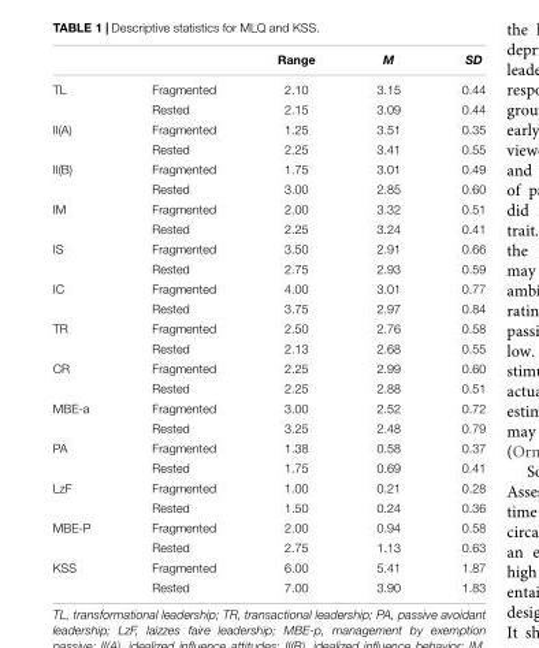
<table><thead><tr><td></td><td></td><td>Range</td><td>M</td><td>SD</td></tr></thead><tbody><tr><td rowspan="2">TL</td><td>Fragmented</td><td>2.10</td><td>3.15</td><td>0.44</td></tr><tr><td>Rested</td><td>2.15</td><td>3.09</td><td>0.44</td></tr><tr><td rowspan="2">II(A)</td><td>Fragmented</td><td>1.25</td><td>3.51</td><td>0.35</td></tr><tr><td>Rested</td><td>2.25</td><td>3.41</td><td>0.55</td></tr><tr><td rowspan="2">II(B)</td><td>Fragmented</td><td>1.75</td><td>3.01</td><td>0.49</td></tr><tr><td>Rested</td><td>3.00</td><td>2.85</td><td>0.60</td></tr><tr><td rowspan="2">IM</td><td>Fragmented</td><td>2.00</td><td>3.32</td><td>0.51</td></tr><tr><td>Rested</td><td>2.25</td><td>3.24</td><td>0.41</td></tr><tr><td rowspan="2">IS</td><td>Fragmented</td><td>3.50</td><td>2.91</td><td>0.66</td></tr><tr><td>Rested</td><td>2.75</td><td>2.93</td><td>0.59</td></tr><tr><td rowspan="2">IC</td><td>Fragmented</td><td>4.00</td><td>3.01</td><td>0.77</td></tr><tr><td>Rested</td><td>3.75</td><td>2.97</td><td>0.84</td></tr><tr><td rowspan="2">TR</td><td>Fragmented</td><td>2.50</td><td>2.76</td><td>0.58</td></tr><tr><td>Rested</td><td>2.13</td><td>2.68</td><td>0.55</td></tr><tr><td rowspan="2">CR</td><td>Fragmented</td><td>2.25</td><td>2.99</td><td>0.60</td></tr><tr><td>Rested</td><td>2.25</td><td>2.88</td><td>0.51</td></tr><tr><td rowspan="2">MBE-a</td><td>Fragmented</td><td>3.00</td><td>2.52</td><td>0.72</td></tr><tr><td>Rested</td><td>3.25</td><td>2.48</td><td>0.79</td></tr><tr><td rowspan="2">PA</td><td>Fragmented</td><td>1.38</td><td>0.58</td><td>0.37</td></tr><tr><td>Rested</td><td>1.75</td><td>0.69</td><td>0.41</td></tr><tr><td rowspan="2">LzF</td><td>Fragmented</td><td>1.00</td><td>0.21</td><td>0.28</td></tr><tr><td>Rested</td><td>1.50</td><td>0.24</td><td>0.36</td></tr><tr><td rowspan="2">MBE-P</td><td>Fragmented</td><td>2.00</td><td>0.94</td><td>0.58</td></tr><tr><td>Rested</td><td>2.75</td><td>1.13</td><td>0.63</td></tr><tr><td rowspan="2">KSS</td><td>Fragmented</td><td>6.00</td><td>5.41</td><td>1.87</td></tr><tr><td>Rested</td><td>7.00</td><td>3.90</td><td>1.83</td></tr></tbody></table>